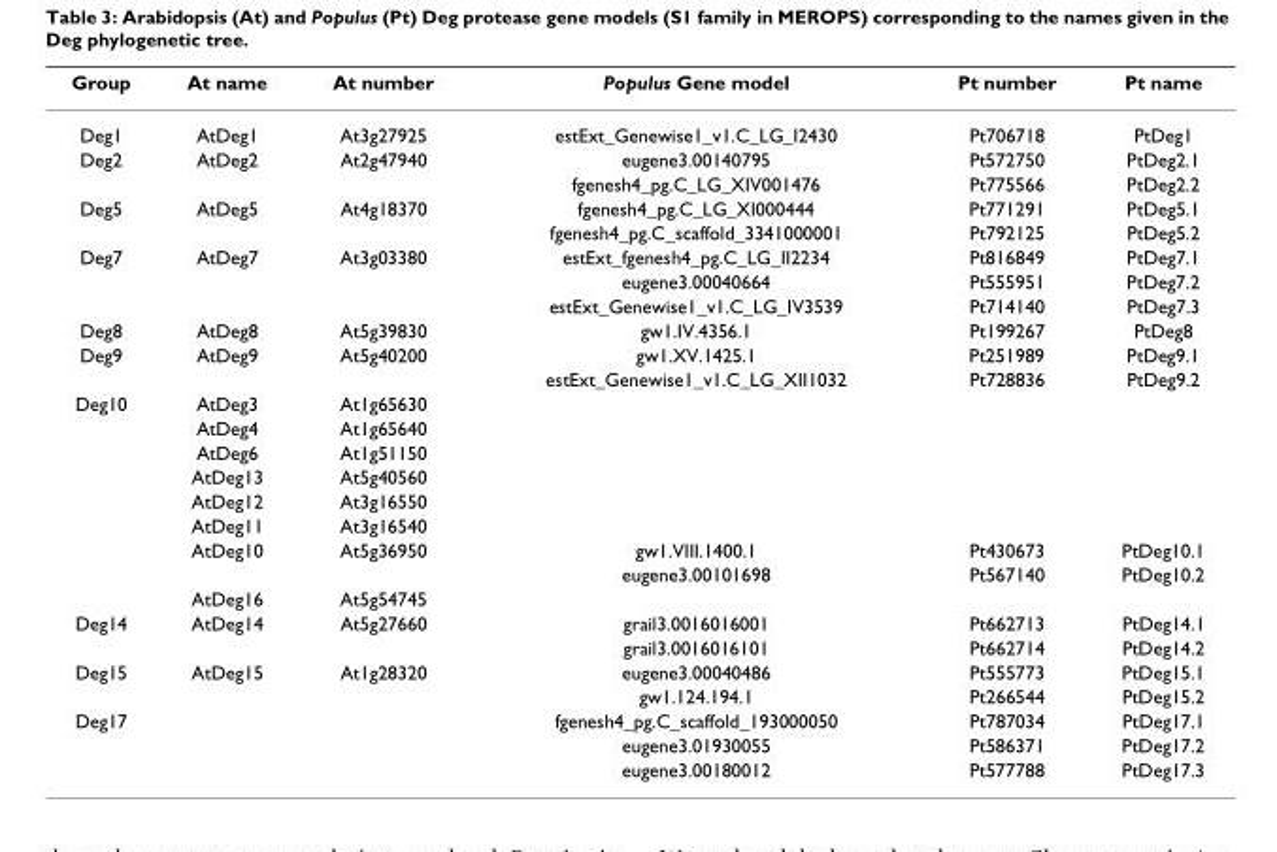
<table><thead><tr><td>Group</td><td>At name</td><td>At number</td><td>Populus Gene model</td><td>Pt number</td><td>Pt name</td></tr></thead><tbody><tr><td>Deg1</td><td>AtDeg1</td><td>At3g27925</td><td>estExt_Genewise1_v1.C_LG_I2430</td><td>Pt706718</td><td>PtDeg1</td></tr><tr><td rowspan="2">Deg2</td><td>AtDeg2</td><td>At2g47940</td><td>eugene3.00140795</td><td>Pt572750</td><td>PtDeg2.1</td></tr><tr><td></td><td></td><td>fgenesh4_pg.C_LG_XIV001476</td><td>Pt775566</td><td>PtDeg2.2</td></tr><tr><td rowspan="2">Deg5</td><td>AtDeg5</td><td>At4g18370</td><td>fgenesh4_pg.C_LG_XI000444</td><td>Pt771291</td><td>PtDeg5.1</td></tr><tr><td></td><td></td><td>fgenesh4_pg.C_scaffold_3341000001</td><td>Pt792125</td><td>PtDeg5.2</td></tr><tr><td rowspan="3">Deg7</td><td>AtDeg7</td><td>At3g03380</td><td>estExt_fgenesh4_pg.C_LG_II2234</td><td>Pt816849</td><td>PtDeg7.1</td></tr><tr><td></td><td></td><td>eugene3.00040664</td><td>Pt555951</td><td>PtDeg7.2</td></tr><tr><td></td><td></td><td>estExt_Genewise1_v1.C_LG_IV3539</td><td>Pt714140</td><td>PtDeg7.3</td></tr><tr><td>Deg8</td><td>AtDeg8</td><td>At5g39830</td><td>gw1.IV.4356.1</td><td>Pt199267</td><td>PtDeg8</td></tr><tr><td rowspan="2">Deg9</td><td>AtDeg9</td><td>At5g40200</td><td>gw1.XV.1425.1</td><td>Pt251989</td><td>PtDeg9.1</td></tr><tr><td></td><td></td><td>estExt_Genewise1_v1.C_LG_XII1032</td><td>Pt728836</td><td>PtDeg9.2</td></tr><tr><td rowspan="9">Deg10</td><td>AtDeg3</td><td>At1g65630</td><td></td><td></td><td></td></tr><tr><td>AtDeg4</td><td>At1g65640</td><td></td><td></td><td></td></tr><tr><td>AtDeg6</td><td>At1g51150</td><td></td><td></td><td></td></tr><tr><td>AtDeg13</td><td>At5g40560</td><td></td><td></td><td></td></tr><tr><td>AtDeg12</td><td>At3g16550</td><td></td><td></td><td></td></tr><tr><td>AtDeg11</td><td>At3g16540</td><td></td><td></td><td></td></tr><tr><td>AtDeg10</td><td>At5g36950</td><td>gw1.VIII.1400.1</td><td>Pt430673</td><td>PtDeg10.1</td></tr><tr><td></td><td></td><td>eugene3.00101698</td><td>Pt567140</td><td>PtDeg10.2</td></tr><tr><td>AtDeg16</td><td>At5g54745</td><td></td><td></td><td></td></tr><tr><td rowspan="2">Deg14</td><td>AtDeg14</td><td>At5g27660</td><td>grail3.0016016001</td><td>Pt662713</td><td>PtDeg14.1</td></tr><tr><td></td><td></td><td>grail3.0016016101</td><td>Pt662714</td><td>PtDeg14.2</td></tr><tr><td rowspan="2">Deg15</td><td>AtDeg15</td><td>At1g28320</td><td>eugene3.00040486</td><td>Pt555773</td><td>PtDeg15.1</td></tr><tr><td></td><td></td><td>gw1.124.194.1</td><td>Pt266544</td><td>PtDeg15.2</td></tr><tr><td rowspan="3">Deg17</td><td></td><td></td><td>fgenesh4_pg.C_scaffold_193000050</td><td>Pt787034</td><td>PtDeg17.1</td></tr><tr><td></td><td></td><td>eugene3.01930055</td><td>Pt586371</td><td>PtDeg17.2</td></tr><tr><td></td><td></td><td>eugene3.00180012</td><td>Pt577788</td><td>PtDeg17.3</td></tr></tbody></table>